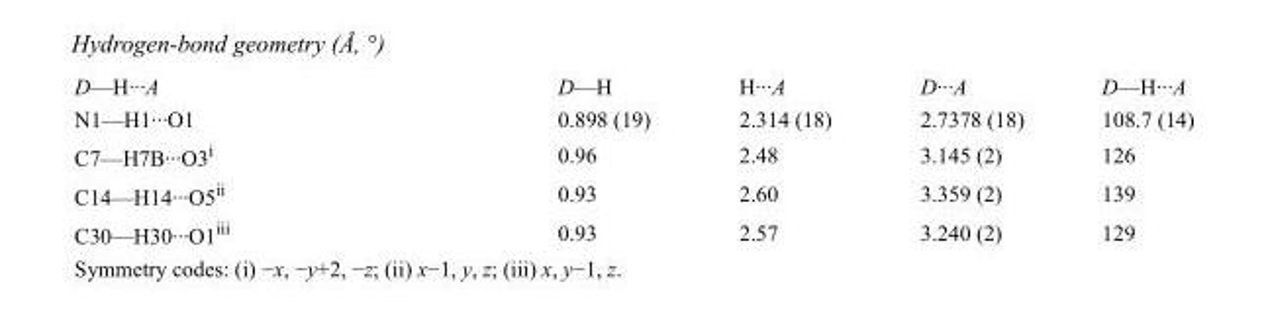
<table><tbody><tr><td>D—H···A</td><td>D—H</td><td>H···A</td><td>D···A</td><td>D—H···A</td></tr><tr><td>N1—H1···O1</td><td>0.898 (19)</td><td>2.314 (18)</td><td>2.7378 (18)</td><td>108.7 (14)</td></tr><tr><td>C7—H7B···O3<sup>i</sup></td><td>0.96</td><td>2.48</td><td>3.145 (2)</td><td>126</td></tr><tr><td>C14—H14···O5<sup>ii</sup></td><td>0.93</td><td>2.60</td><td>3.359 (2)</td><td>139</td></tr><tr><td>C30—H30···O1<sup>iii</sup></td><td>0.93</td><td>2.57</td><td>3.240 (2)</td><td>129</td></tr></tbody></table>